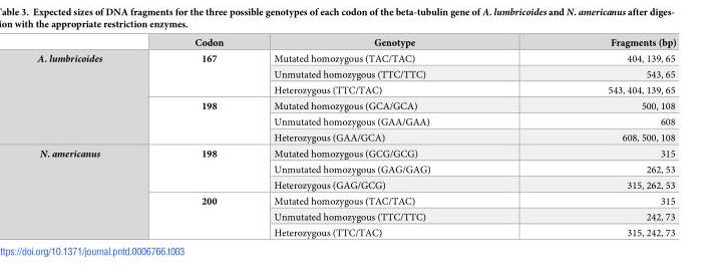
<table><thead><tr><td></td><td>Codon</td><td>Genotype</td><td>Fragments (bp)</td></tr></thead><tbody><tr><td rowspan="6">A. lumbricoides</td><td rowspan="3">167</td><td>Mutated homozygous (TAC/TAC)</td><td>404, 139, 65</td></tr><tr><td>Unmutated homozygous (TTC/TTC)</td><td>543, 65</td></tr><tr><td>Heterozygous (TTC/TAC)</td><td>543, 404, 139, 65</td></tr><tr><td rowspan="3">198</td><td>Mutated homozygous (GCA/GCA)</td><td>500, 108</td></tr><tr><td>Unmutated homozygous (GAA/GAA)</td><td>608</td></tr><tr><td>Heterozygous (GAA/GCA)</td><td>608, 500, 108</td></tr><tr><td rowspan="6">N. americanus</td><td rowspan="3">198</td><td>Mutated homozygous (GCG/GCG)</td><td>315</td></tr><tr><td>Unmutated homozygous (GAG/GAG)</td><td>262, 53</td></tr><tr><td>Heterozygous (GAG/GCG)</td><td>315, 262, 53</td></tr><tr><td rowspan="3">200</td><td>Mutated homozygous (TAC/TAC)</td><td>315</td></tr><tr><td>Unmutated homozygous (TTC/TTC)</td><td>242, 73</td></tr><tr><td>Heterozygous (TTC/TAC)</td><td>315, 242, 73</td></tr></tbody></table>